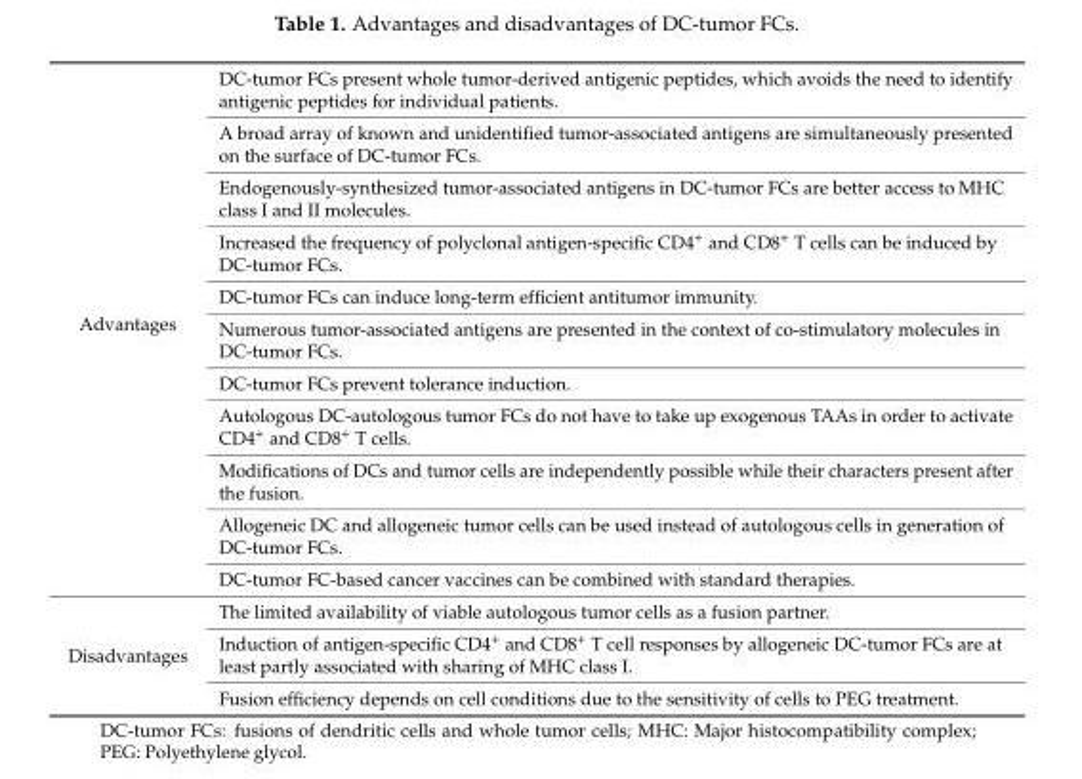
<table><tbody><tr><td rowspan="11">Advantages</td><td>DC-tumor FCs present whole tumor-derived antigenic peptides, which avoids the need to identify antigenic peptides for individual patients.</td></tr><tr><td>A broad array of known and unidentified tumor-associated antigens are simultaneously presented on the surface of DC-tumor FCs.</td></tr><tr><td>Endogenously-synthesized tumor-associated antigens in DC-tumor FCs are better access to MHC class I and II molecules.</td></tr><tr><td>Increased the frequency of polyclonal antigen-specific CD4<sup>+</sup> and CD8<sup>+</sup> T cells can be induced by DC-tumor FCs.</td></tr><tr><td>DC-tumor FCs can induce long-term efficient antitumor immunity.</td></tr><tr><td>Numerous tumor-associated antigens are presented in the context of co-stimulatory molecules in DC-tumor FCs.</td></tr><tr><td>DC-tumor FCs prevent tolerance induction.</td></tr><tr><td>Autologous DC-autologous tumor FCs do not have to take up exogenous TAAs in order to activate CD4<sup>+</sup> and CD8<sup>+</sup> T cells.</td></tr><tr><td>Modifications of DCs and tumor cells are independently possible while their characters present after the fusion.</td></tr><tr><td>Allogeneic DC and allogeneic tumor cells can be used instead of autologous cells in generation of DC-tumor FCs.</td></tr><tr><td>DC-tumor FC-based cancer vaccines can be combined with standard therapies.</td></tr><tr><td rowspan="3">Disadvantages</td><td>The limited availability of viable autologous tumor cells as a fusion partner.</td></tr><tr><td>Induction of antigen-specific CD4<sup>+</sup> and CD8<sup>+</sup> T cell responses by allogeneic DC-tumor FCs are at least partly associated with sharing of MHC class I.</td></tr><tr><td>Fusion efficiency depends on cell conditions due to the sensitivity of cells to PEG treatment.</td></tr></tbody></table>